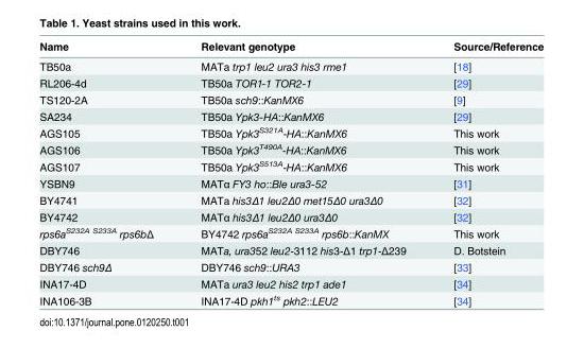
<table><thead><tr><td>Name</td><td>Relevant genotype</td><td>Source/Reference</td></tr></thead><tbody><tr><td>TB50a</td><td>MATa trp1 leu2 ura3 his3 rme1</td><td>[18]</td></tr><tr><td>RL206-4d</td><td>TB50a TOR1-1 TOR2-1</td><td>[29]</td></tr><tr><td>TS120-2A</td><td>TB50a sch9::KanMX6</td><td>[9]</td></tr><tr><td>SA234</td><td>TB50a Ypk3-HA::KanMX6</td><td>[29]</td></tr><tr><td>AGS105</td><td>TB50a Ypk3<sup>S321A</sup>-HA::KanMX6</td><td>This work</td></tr><tr><td>AGS106</td><td>TB50a Ypk3<sup>T490A</sup>-HA::KanMX6</td><td>This work</td></tr><tr><td>AGS107</td><td>TB50a Ypk3<sup>S513A</sup>-HA::KanMX6</td><td>This work</td></tr><tr><td>YSBN9</td><td>MATα FY3 ho::Ble ura3-52</td><td>[31]</td></tr><tr><td>BY4741</td><td>MATa his3Δ1 leu2Δ0 met15Δ0 ura3Δ0</td><td>[32]</td></tr><tr><td>BY4742</td><td>MATα his3Δ1 leu2Δ0 ura3Δ0</td><td>[32]</td></tr><tr><td>rps6a<sup>S232A S233A</sup> rps6bΔ</td><td>BY4742 rps6a<sup>S232A S233A</sup> rps6b::KanMX</td><td>This work</td></tr><tr><td>DBY746</td><td>MATa, ura352 leu2-3112 his3-Δ1 trp1-Δ239</td><td>D. Botstein</td></tr><tr><td>DBY746 sch9Δ</td><td>DBY746 sch9::URA3</td><td>[33]</td></tr><tr><td>INA17-4D</td><td>MATa ura3 leu2 his2 trp1 ade1</td><td>[34]</td></tr><tr><td>INA106-3B</td><td>INA17-4D pkh1<sup>ts</sup> pkh2::LEU2</td><td>[34]</td></tr></tbody></table>